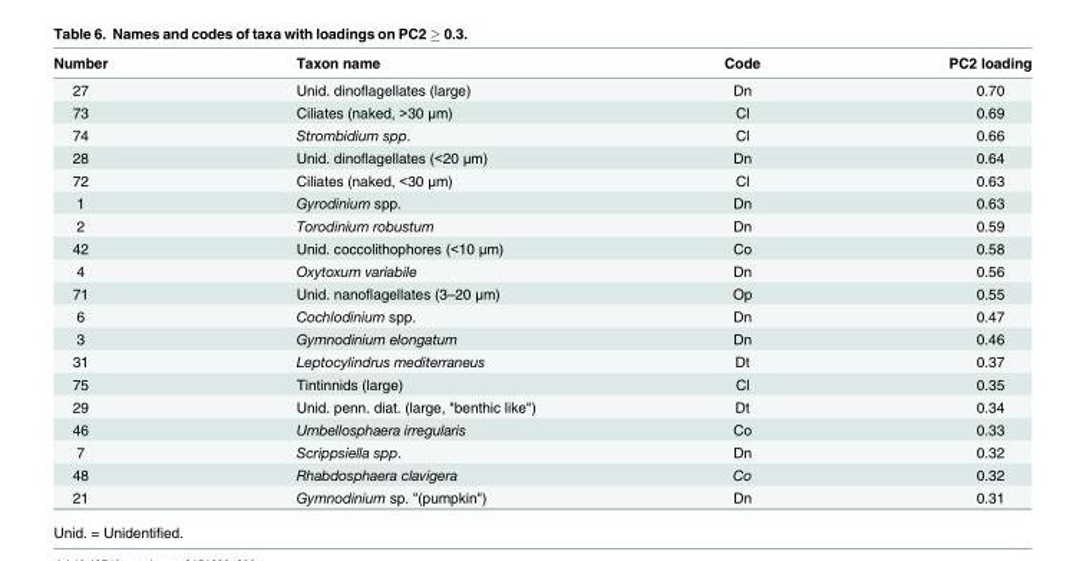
<table><thead><tr><td>Number</td><td>Taxon name</td><td>Code</td><td>PC2 loading</td></tr></thead><tbody><tr><td>27</td><td>Unid. dinoflagellates (large)</td><td>Dn</td><td>0.70</td></tr><tr><td>73</td><td>Ciliates (naked, &gt;30 μm)</td><td>Cl</td><td>0.69</td></tr><tr><td>74</td><td>Strombidium spp.</td><td>Cl</td><td>0.66</td></tr><tr><td>28</td><td>Unid. dinoflagellates (&lt;20 μm)</td><td>Dn</td><td>0.64</td></tr><tr><td>72</td><td>Ciliates (naked, &lt;30 μm)</td><td>Cl</td><td>0.63</td></tr><tr><td>1</td><td>Gyrodinium spp.</td><td>Dn</td><td>0.63</td></tr><tr><td>2</td><td>Torodinium robustum</td><td>Dn</td><td>0.59</td></tr><tr><td>42</td><td>Unid. coccolithophores (&lt;10 μm)</td><td>Co</td><td>0.58</td></tr><tr><td>4</td><td>Oxytoxum variabile</td><td>Dn</td><td>0.56</td></tr><tr><td>71</td><td>Unid. nanoflagellates (3–20 μm)</td><td>Op</td><td>0.55</td></tr><tr><td>6</td><td>Cochlodinium spp.</td><td>Dn</td><td>0.47</td></tr><tr><td>3</td><td>Gymnodinium elongatum</td><td>Dn</td><td>0.46</td></tr><tr><td>31</td><td>Leptocylindrus mediterraneus</td><td>Dt</td><td>0.37</td></tr><tr><td>75</td><td>Tintinnids (large)</td><td>Cl</td><td>0.35</td></tr><tr><td>29</td><td>Unid. penn. diat. (large, &quot;benthic like&quot;)</td><td>Dt</td><td>0.34</td></tr><tr><td>46</td><td>Umbellosphaera irregularis</td><td>Co</td><td>0.33</td></tr><tr><td>7</td><td>Scrippsiella spp.</td><td>Dn</td><td>0.32</td></tr><tr><td>48</td><td>Rhabdosphaera clavigera</td><td>Co</td><td>0.32</td></tr><tr><td>21</td><td>Gymnodinium sp. &quot;(pumpkin&quot;)</td><td>Dn</td><td>0.31</td></tr></tbody></table>